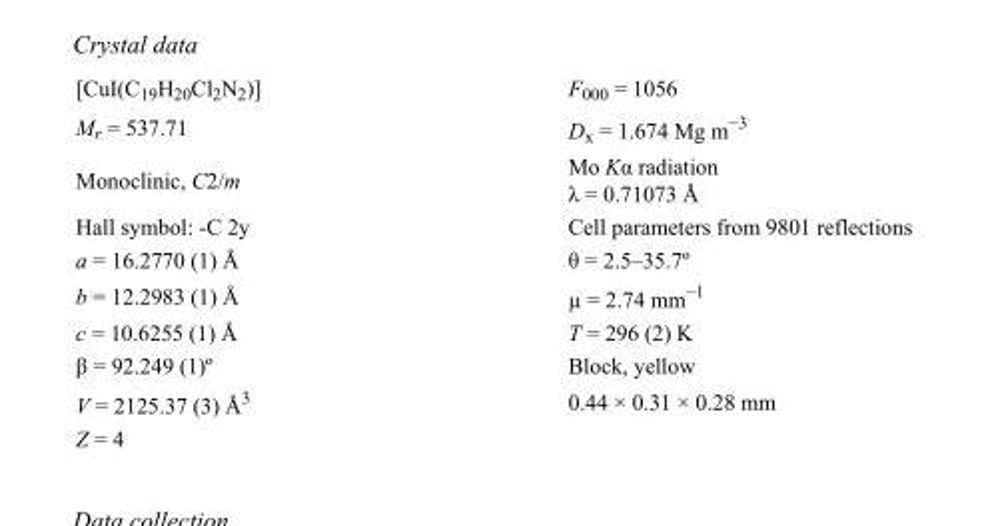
<table><tbody><tr><td>[CuI(C<sub>19</sub>H<sub>20</sub>Cl<sub>2</sub>N<sub>2</sub>)]</td><td>F000 = 1056</td></tr><tr><td>M<sub>r</sub> = 537.71</td><td>D<sub>x</sub> = 1.674 Mg m<sup>−3</sup></td></tr><tr><td>Monoclinic, C2/m</td><td>Mo Kα radiation λ = 0.71073 Å</td></tr><tr><td>Hall symbol: -C 2y</td><td>Cell parameters from 9801 reflections</td></tr><tr><td>a = 16.2770 (1) Å</td><td>θ = 2.5–35.7º</td></tr><tr><td>b = 12.2983 (1) Å</td><td>µ = 2.74 mm<sup>−1</sup></td></tr><tr><td>c = 10.6255 (1) Å</td><td>T = 296 (2) K</td></tr><tr><td>β = 92.249 (1)º</td><td>Block, yellow</td></tr><tr><td>V = 2125.37 (3) Å<sup>3</sup></td><td>0.44 × 0.31 × 0.28 mm</td></tr><tr><td>Z = 4</td><td></td></tr></tbody></table>